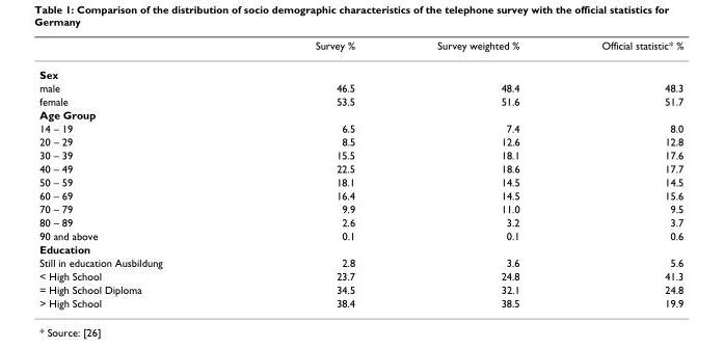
<table><thead><tr><td></td><td>Survey %</td><td>Survey weighted %</td><td>Official statistic* %</td></tr></thead><tbody><tr><td colspan="4">Sex</td></tr><tr><td>male</td><td>46.5</td><td>48.4</td><td>48.3</td></tr><tr><td>female</td><td>53.5</td><td>51.6</td><td>51.7</td></tr><tr><td colspan="4">Age Group</td></tr><tr><td>14 – 19</td><td>6.5</td><td>7.4</td><td>8.0</td></tr><tr><td>20 – 29</td><td>8.5</td><td>12.6</td><td>12.8</td></tr><tr><td>30 – 39</td><td>15.5</td><td>18.1</td><td>17.6</td></tr><tr><td>40 – 49</td><td>22.5</td><td>18.6</td><td>17.7</td></tr><tr><td>50 – 59</td><td>18.1</td><td>14.5</td><td>14.5</td></tr><tr><td>60 – 69</td><td>16.4</td><td>14.5</td><td>15.6</td></tr><tr><td>70 – 79</td><td>9.9</td><td>11.0</td><td>9.5</td></tr><tr><td>80 – 89</td><td>2.6</td><td>3.2</td><td>3.7</td></tr><tr><td>90 and above</td><td>0.1</td><td>0.1</td><td>0.6</td></tr><tr><td colspan="4">Education</td></tr><tr><td>Still in education Ausbildung</td><td>2.8</td><td>3.6</td><td>5.6</td></tr><tr><td>&lt; High School</td><td>23.7</td><td>24.8</td><td>41.3</td></tr><tr><td>= High School Diploma</td><td>34.5</td><td>32.1</td><td>24.8</td></tr><tr><td>&gt; High School</td><td>38.4</td><td>38.5</td><td>19.9</td></tr></tbody></table>